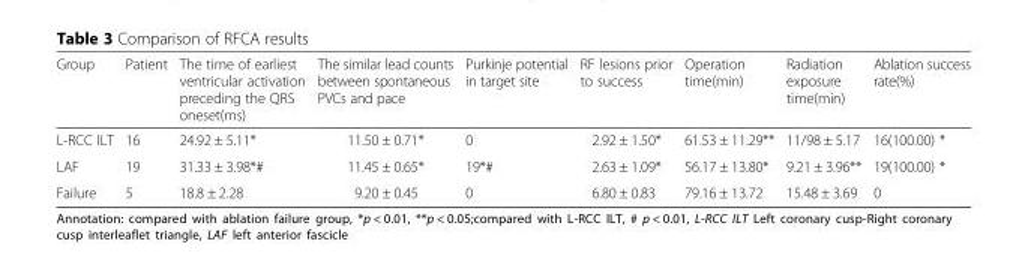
<table><thead><tr><td>Group</td><td>Patient</td><td>The time of earliest ventricular activation preceding the QRS oneset(ms)</td><td>The similar lead counts between spontaneous PVCs and pace</td><td>Purkinje potential in target site</td><td>RF lesions prior to success</td><td>Operation time(min)</td><td>Radiation exposure time(min)</td><td>Ablation success rate(%)</td></tr></thead><tbody><tr><td>L-RCC ILT</td><td>16</td><td>24.92 ± 5.11*</td><td>11.50 ± 0.71*</td><td>0</td><td>2.92 ± 1.50*</td><td>61.53 ± 11.29**</td><td>11/98 ± 5.17</td><td>16(100.00) *</td></tr><tr><td>LAF</td><td>19</td><td>31.33 ± 3.98*#</td><td>11.45 ± 0.65*</td><td>19*#</td><td>2.63 ± 1.09*</td><td>56.17 ± 13.80*</td><td>9.21 ± 3.96**</td><td>19(100.00) *</td></tr><tr><td>Failure</td><td>5</td><td>18.8 ± 2.28</td><td>9.20 ± 0.45</td><td>0</td><td>6.80 ± 0.83</td><td>79.16 ± 13.72</td><td>15.48 ± 3.69</td><td>0</td></tr></tbody></table>